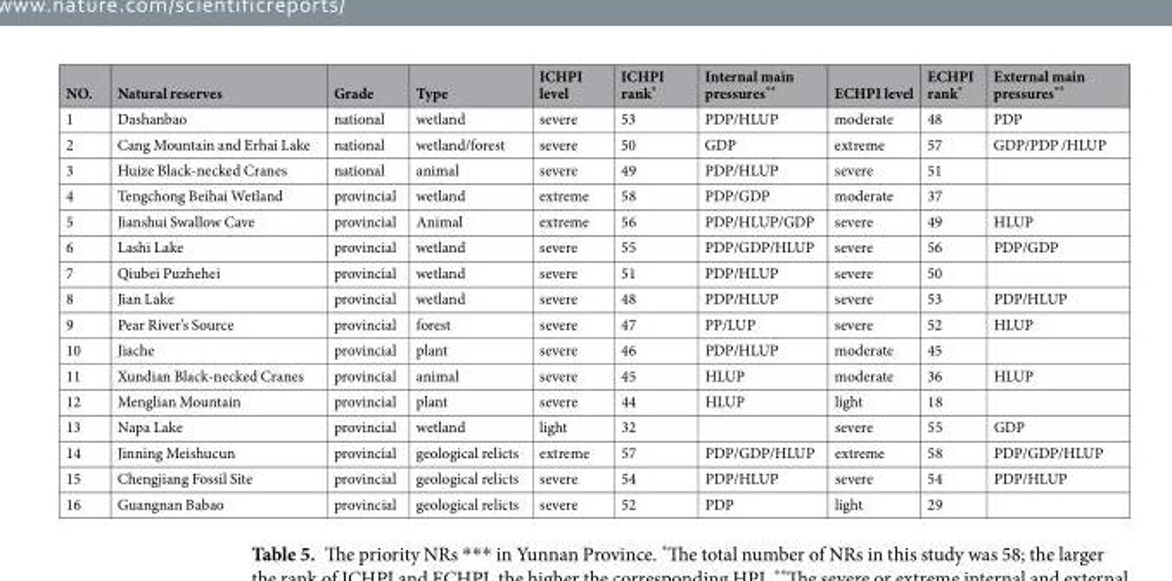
<table><thead><tr><td>NO.</td><td>Natural reserves</td><td>Grade</td><td>Type</td><td>ICHPI level</td><td>ICHPI rank*</td><td>Internal main pressures**</td><td>ECHPI level</td><td>ECHPI rank*</td><td>External main pressures**</td></tr></thead><tbody><tr><td>1</td><td>Dashanbao</td><td>national</td><td>wetland</td><td>severe</td><td>53</td><td>PDP/HLUP</td><td>moderate</td><td>48</td><td>PDP</td></tr><tr><td>2</td><td>Cang Mountain and Erhai Lake</td><td>national</td><td>wetland/forest</td><td>severe</td><td>50</td><td>GDP</td><td>extreme</td><td>57</td><td>GDP/PDP /HLUP</td></tr><tr><td>3</td><td>Huize Black-necked Cranes</td><td>national</td><td>animal</td><td>severe</td><td>49</td><td>PDP/HLUP</td><td>severe</td><td>51</td><td></td></tr><tr><td>4</td><td>Tengchong Beihai Wetland</td><td>provincial</td><td>wetland</td><td>extreme</td><td>58</td><td>PDP/GDP</td><td>moderate</td><td>37</td><td></td></tr><tr><td>5</td><td>Jianshui Swallow Cave</td><td>provincial</td><td>Animal</td><td>extreme</td><td>56</td><td>PDP/HLUP/GDP</td><td>severe</td><td>49</td><td>HLUP</td></tr><tr><td>6</td><td>Lashi Lake</td><td>provincial</td><td>wetland</td><td>severe</td><td>55</td><td>PDP/GDP/HLUP</td><td>severe</td><td>56</td><td>PDP/GDP</td></tr><tr><td>7</td><td>Qiubei Puzhehei</td><td>provincial</td><td>wetland</td><td>severe</td><td>51</td><td>PDP/HLUP</td><td>severe</td><td>50</td><td></td></tr><tr><td>8</td><td>Jian Lake</td><td>provincial</td><td>wetland</td><td>severe</td><td>48</td><td>PDP/HLUP</td><td>severe</td><td>53</td><td>PDP/HLUP</td></tr><tr><td>9</td><td>Pear River’s Source</td><td>provincial</td><td>forest</td><td>severe</td><td>47</td><td>PP/LUP</td><td>severe</td><td>52</td><td>HLUP</td></tr><tr><td>10</td><td>Jiache</td><td>provincial</td><td>plant</td><td>severe</td><td>46</td><td>PDP/HLUP</td><td>moderate</td><td>45</td><td></td></tr><tr><td>11</td><td>Xundian Black-necked Cranes</td><td>provincial</td><td>animal</td><td>severe</td><td>45</td><td>HLUP</td><td>moderate</td><td>36</td><td>HLUP</td></tr><tr><td>12</td><td>Menglian Mountain</td><td>provincial</td><td>plant</td><td>severe</td><td>44</td><td>HLUP</td><td>light</td><td>18</td><td></td></tr><tr><td>13</td><td>Napa Lake</td><td>provincial</td><td>wetland</td><td>light</td><td>32</td><td></td><td>severe</td><td>55</td><td>GDP</td></tr><tr><td>14</td><td>Jinning Meishucun</td><td>provincial</td><td>geological relicts</td><td>extreme</td><td>57</td><td>PDP/GDP/HLUP</td><td>extreme</td><td>58</td><td>PDP/GDP/HLUP</td></tr><tr><td>15</td><td>Chengjiang Fossil Site</td><td>provincial</td><td>geological relicts</td><td>severe</td><td>54</td><td>PDP/HLUP</td><td>severe</td><td>54</td><td>PDP/HLUP</td></tr><tr><td>16</td><td>Guangnan Babao</td><td>provincial</td><td>geological relicts</td><td>severe</td><td>52</td><td>PDP</td><td>light</td><td>29</td><td></td></tr></tbody></table>